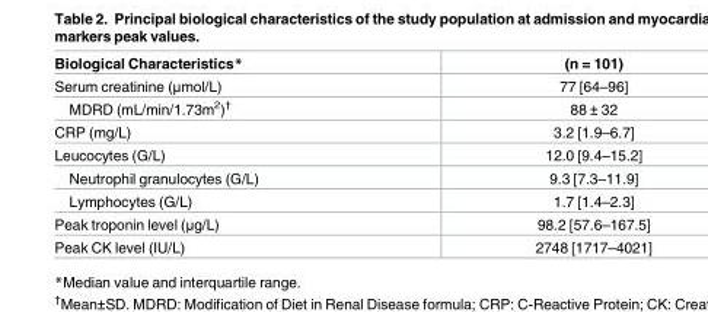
<table><thead><tr><td>Biological Characteristics*</td><td>(n = 101)</td></tr></thead><tbody><tr><td>Serum creatinine (μmol/L)</td><td>77 [64–96]</td></tr><tr><td>MDRD (mL/min/1.73m<sup>2</sup>)<sup>†</sup></td><td>88 ± 32</td></tr><tr><td>CRP (mg/L)</td><td>3.2 [1.9–6.7]</td></tr><tr><td>Leucocytes (G/L)</td><td>12.0 [9.4–15.2]</td></tr><tr><td>Neutrophil granulocytes (G/L)</td><td>9.3 [7.3–11.9]</td></tr><tr><td>Lymphocytes (G/L)</td><td>1.7 [1.4–2.3]</td></tr><tr><td>Peak troponin level (μg/L)</td><td>98.2 [57.6–167.5]</td></tr><tr><td>Peak CK level (IU/L)</td><td>2748 [1717–4021]</td></tr></tbody></table>